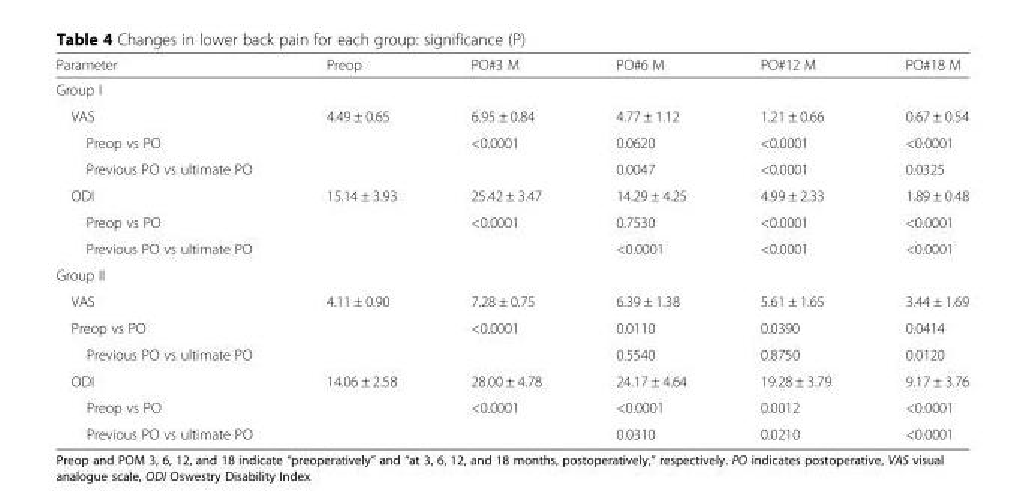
<table><thead><tr><td>Parameter</td><td>Preop</td><td>PO#3 M</td><td>PO#6 M</td><td>PO#12 M</td><td>PO#18 M</td></tr></thead><tbody><tr><td colspan="6">Group I</td></tr><tr><td>VAS</td><td>4.49 ± 0.65</td><td>6.95 ± 0.84</td><td>4.77 ± 1.12</td><td>1.21 ± 0.66</td><td>0.67 ± 0.54</td></tr><tr><td>Preop vs PO</td><td></td><td>&lt;0.0001</td><td>0.0620</td><td>&lt;0.0001</td><td>&lt;0.0001</td></tr><tr><td>Previous PO vs ultimate PO</td><td></td><td></td><td>0.0047</td><td>&lt;0.0001</td><td>0.0325</td></tr><tr><td>ODI</td><td>15.14 ± 3.93</td><td>25.42 ± 3.47</td><td>14.29 ± 4.25</td><td>4.99 ± 2.33</td><td>1.89 ± 0.48</td></tr><tr><td>Preop vs PO</td><td></td><td>&lt;0.0001</td><td>0.7530</td><td>&lt;0.0001</td><td>&lt;0.0001</td></tr><tr><td>Previous PO vs ultimate PO</td><td></td><td></td><td>&lt;0.0001</td><td>&lt;0.0001</td><td>&lt;0.0001</td></tr><tr><td colspan="6">Group II</td></tr><tr><td>VAS</td><td>4.11 ± 0.90</td><td>7.28 ± 0.75</td><td>6.39 ± 1.38</td><td>5.61 ± 1.65</td><td>3.44 ± 1.69</td></tr><tr><td>Preop vs PO</td><td></td><td>&lt;0.0001</td><td>0.0110</td><td>0.0390</td><td>0.0414</td></tr><tr><td>Previous PO vs ultimate PO</td><td></td><td></td><td>0.5540</td><td>0.8750</td><td>0.0120</td></tr><tr><td>ODI</td><td>14.06 ± 2.58</td><td>28.00 ± 4.78</td><td>24.17 ± 4.64</td><td>19.28 ± 3.79</td><td>9.17 ± 3.76</td></tr><tr><td>Preop vs PO</td><td></td><td>&lt;0.0001</td><td>&lt;0.0001</td><td>0.0012</td><td>&lt;0.0001</td></tr><tr><td>Previous PO vs ultimate PO</td><td></td><td></td><td>0.0310</td><td>0.0210</td><td>&lt;0.0001</td></tr></tbody></table>